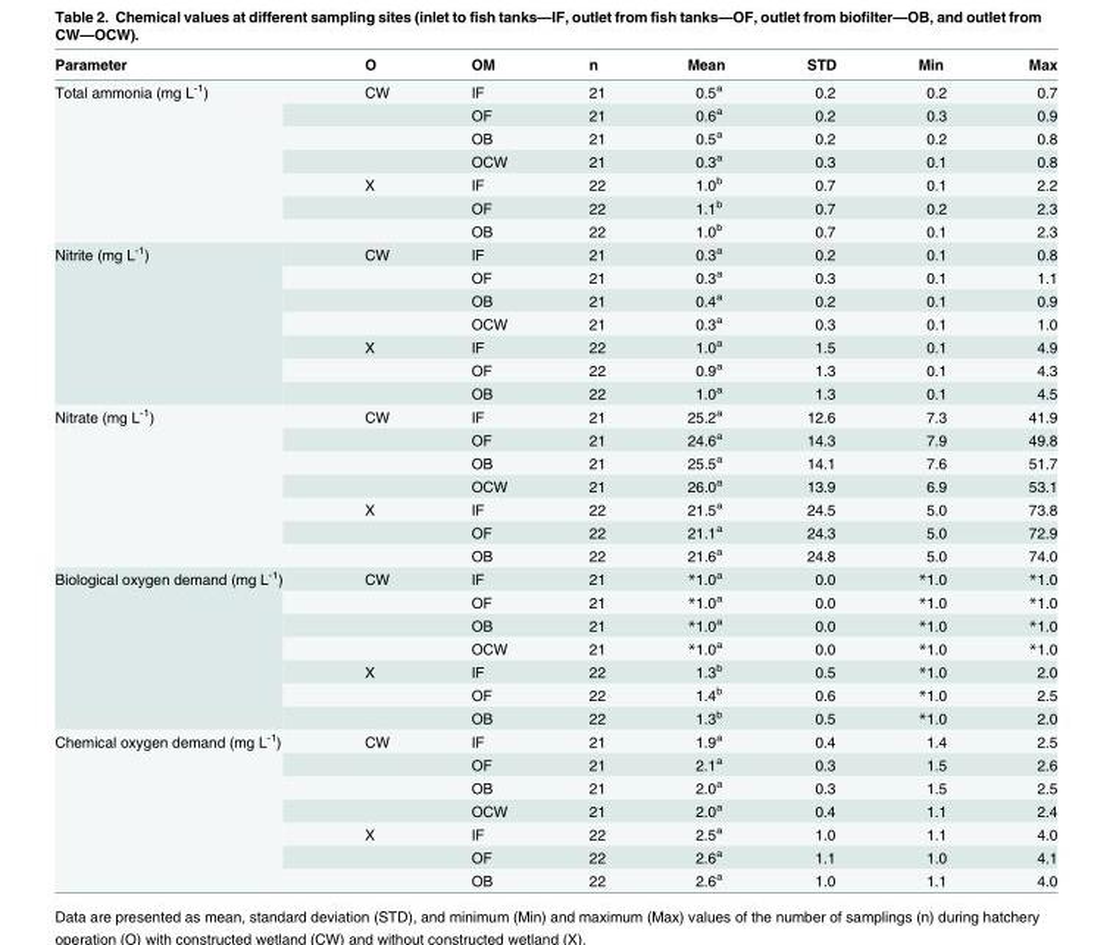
<table><thead><tr><td>Parameter</td><td>O</td><td>OM</td><td>n</td><td>Mean</td><td>STD</td><td>Min</td><td>Max</td></tr></thead><tbody><tr><td rowspan="7">Total ammonia (mg L<sup>-1</sup>)</td><td>CW</td><td>IF</td><td>21</td><td>0.5<sup>a</sup></td><td>0.2</td><td>0.2</td><td>0.7</td></tr><tr><td></td><td>OF</td><td>21</td><td>0.6<sup>a</sup></td><td>0.2</td><td>0.3</td><td>0.9</td></tr><tr><td></td><td>OB</td><td>21</td><td>0.5<sup>a</sup></td><td>0.2</td><td>0.2</td><td>0.8</td></tr><tr><td></td><td>OCW</td><td>21</td><td>0.3<sup>a</sup></td><td>0.3</td><td>0.1</td><td>0.8</td></tr><tr><td>X</td><td>IF</td><td>22</td><td>1.0<sup>b</sup></td><td>0.7</td><td>0.1</td><td>2.2</td></tr><tr><td></td><td>OF</td><td>22</td><td>1.1<sup>b</sup></td><td>0.7</td><td>0.2</td><td>2.3</td></tr><tr><td></td><td>OB</td><td>22</td><td>1.0<sup>b</sup></td><td>0.7</td><td>0.1</td><td>2.3</td></tr><tr><td rowspan="7">Nitrite (mg L<sup>-1</sup>)</td><td>CW</td><td>IF</td><td>21</td><td>0.3<sup>a</sup></td><td>0.2</td><td>0.1</td><td>0.8</td></tr><tr><td></td><td>OF</td><td>21</td><td>0.3<sup>a</sup></td><td>0.3</td><td>0.1</td><td>1.1</td></tr><tr><td></td><td>OB</td><td>21</td><td>0.4<sup>a</sup></td><td>0.2</td><td>0.1</td><td>0.9</td></tr><tr><td></td><td>OCW</td><td>21</td><td>0.3<sup>a</sup></td><td>0.3</td><td>0.1</td><td>1.0</td></tr><tr><td>X</td><td>IF</td><td>22</td><td>1.0<sup>a</sup></td><td>1.5</td><td>0.1</td><td>4.9</td></tr><tr><td></td><td>OF</td><td>22</td><td>0.9<sup>a</sup></td><td>1.3</td><td>0.1</td><td>4.3</td></tr><tr><td></td><td>OB</td><td>22</td><td>1.0<sup>a</sup></td><td>1.3</td><td>0.1</td><td>4.5</td></tr><tr><td rowspan="7">Nitrate (mg L<sup>-1</sup>)</td><td>CW</td><td>IF</td><td>21</td><td>25.2<sup>a</sup></td><td>12.6</td><td>7.3</td><td>41.9</td></tr><tr><td></td><td>OF</td><td>21</td><td>24.6<sup>a</sup></td><td>14.3</td><td>7.9</td><td>49.8</td></tr><tr><td></td><td>OB</td><td>21</td><td>25.5<sup>a</sup></td><td>14.1</td><td>7.6</td><td>51.7</td></tr><tr><td></td><td>OCW</td><td>21</td><td>26.0<sup>a</sup></td><td>13.9</td><td>6.9</td><td>53.1</td></tr><tr><td>X</td><td>IF</td><td>22</td><td>21.5<sup>a</sup></td><td>24.5</td><td>5.0</td><td>73.8</td></tr><tr><td></td><td>OF</td><td>22</td><td>21.1<sup>a</sup></td><td>24.3</td><td>5.0</td><td>72.9</td></tr><tr><td></td><td>OB</td><td>22</td><td>21.6<sup>a</sup></td><td>24.8</td><td>5.0</td><td>74.0</td></tr><tr><td rowspan="7">Biological oxygen demand (mg L<sup>-1</sup>)</td><td>CW</td><td>IF</td><td>21</td><td>*1.0<sup>a</sup></td><td>0.0</td><td>*1.0</td><td>*1.0</td></tr><tr><td></td><td>OF</td><td>21</td><td>*1.0<sup>a</sup></td><td>0.0</td><td>*1.0</td><td>*1.0</td></tr><tr><td></td><td>OB</td><td>21</td><td>*1.0<sup>a</sup></td><td>0.0</td><td>*1.0</td><td>*1.0</td></tr><tr><td></td><td>OCW</td><td>21</td><td>*1.0<sup>a</sup></td><td>0.0</td><td>*1.0</td><td>*1.0</td></tr><tr><td>X</td><td>IF</td><td>22</td><td>1.3<sup>b</sup></td><td>0.5</td><td>*1.0</td><td>2.0</td></tr><tr><td></td><td>OF</td><td>22</td><td>1.4<sup>b</sup></td><td>0.6</td><td>*1.0</td><td>2.5</td></tr><tr><td></td><td>OB</td><td>22</td><td>1.3<sup>b</sup></td><td>0.5</td><td>*1.0</td><td>2.0</td></tr><tr><td rowspan="7">Chemical oxygen demand (mg L<sup>-1</sup>)</td><td>CW</td><td>IF</td><td>21</td><td>1.9<sup>a</sup></td><td>0.4</td><td>1.4</td><td>2.5</td></tr><tr><td></td><td>OF</td><td>21</td><td>2.1<sup>a</sup></td><td>0.3</td><td>1.5</td><td>2.6</td></tr><tr><td></td><td>OB</td><td>21</td><td>2.0<sup>a</sup></td><td>0.3</td><td>1.5</td><td>2.5</td></tr><tr><td></td><td>OCW</td><td>21</td><td>2.0<sup>a</sup></td><td>0.4</td><td>1.1</td><td>2.4</td></tr><tr><td>X</td><td>IF</td><td>22</td><td>2.5<sup>a</sup></td><td>1.0</td><td>1.1</td><td>4.0</td></tr><tr><td></td><td>OF</td><td>22</td><td>2.6<sup>a</sup></td><td>1.1</td><td>1.0</td><td>4.1</td></tr><tr><td></td><td>OB</td><td>22</td><td>2.6<sup>a</sup></td><td>1.0</td><td>1.1</td><td>4.0</td></tr></tbody></table>